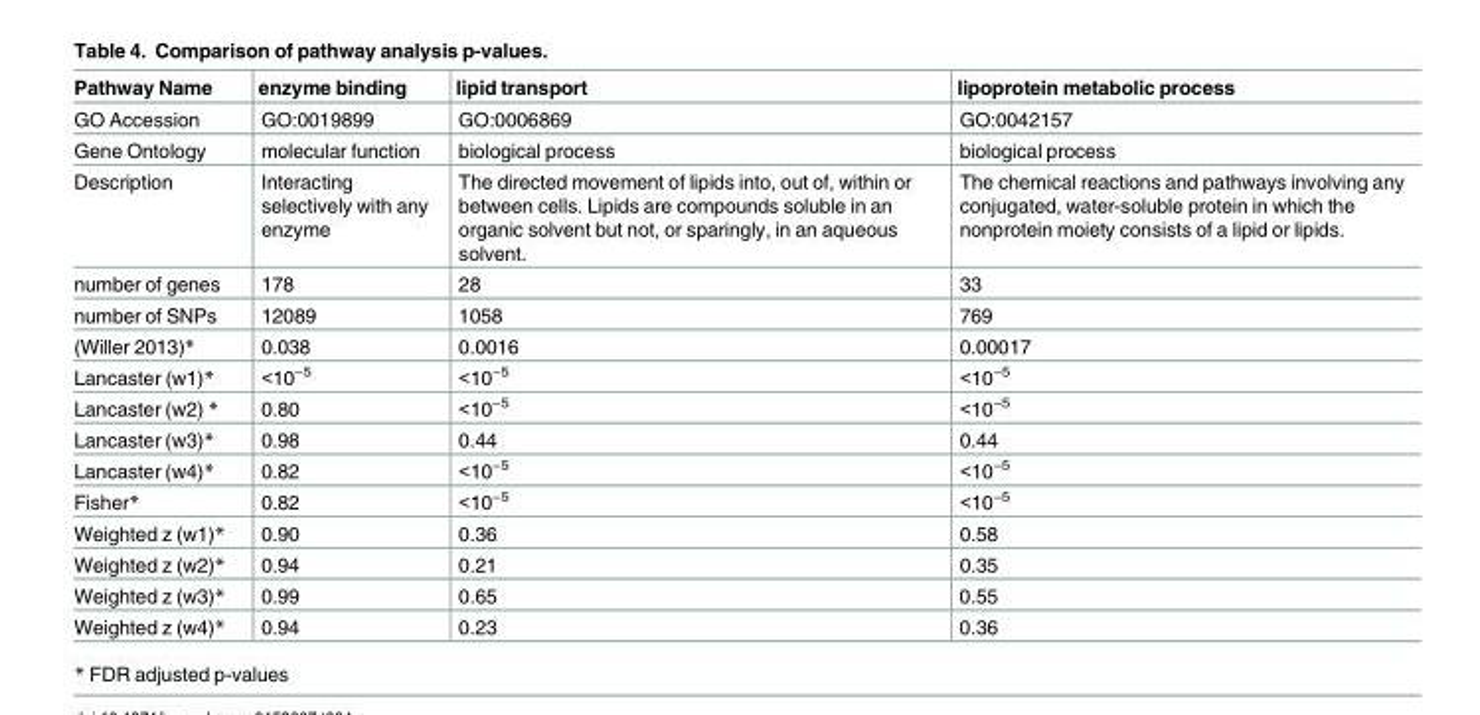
<table><thead><tr><td>Pathway Name</td><td>enzyme binding</td><td>lipid transport</td><td>lipoprotein metabolic process</td></tr></thead><tbody><tr><td>GO Accession</td><td>GO:0019899</td><td>GO:0006869</td><td>GO:0042157</td></tr><tr><td>Gene Ontology</td><td>molecular function</td><td>biological process</td><td>biological process</td></tr><tr><td>Description</td><td>Interacting selectively with any enzyme</td><td>The directed movement of lipids into, out of, within or between cells. Lipids are compounds soluble in an organic solvent but not, or sparingly, in an aqueous solvent.</td><td>The chemical reactions and pathways involving any conjugated, water-soluble protein in which the nonprotein moiety consists of a lipid or lipids.</td></tr><tr><td>number of genes</td><td>178</td><td>28</td><td>33</td></tr><tr><td>number of SNPs</td><td>12089</td><td>1058</td><td>769</td></tr><tr><td>(Willer 2013)*</td><td>0.038</td><td>0.0016</td><td>0.00017</td></tr><tr><td>Lancaster (w1)*</td><td>&lt;10<sup>−5</sup></td><td>&lt;10<sup>−5</sup></td><td>&lt;10<sup>−5</sup></td></tr><tr><td>Lancaster (w2) *</td><td>0.80</td><td>&lt;10<sup>−5</sup></td><td>&lt;10<sup>−5</sup></td></tr><tr><td>Lancaster (w3)*</td><td>0.98</td><td>0.44</td><td>0.44</td></tr><tr><td>Lancaster (w4)*</td><td>0.82</td><td>&lt;10<sup>−5</sup></td><td>&lt;10<sup>−5</sup></td></tr><tr><td>Fisher*</td><td>0.82</td><td>&lt;10<sup>−5</sup></td><td>&lt;10<sup>−5</sup></td></tr><tr><td>Weighted z (w1)*</td><td>0.90</td><td>0.36</td><td>0.58</td></tr><tr><td>Weighted z (w2)*</td><td>0.94</td><td>0.21</td><td>0.35</td></tr><tr><td>Weighted z (w3)*</td><td>0.99</td><td>0.65</td><td>0.55</td></tr><tr><td>Weighted z (w4)*</td><td>0.94</td><td>0.23</td><td>0.36</td></tr></tbody></table>